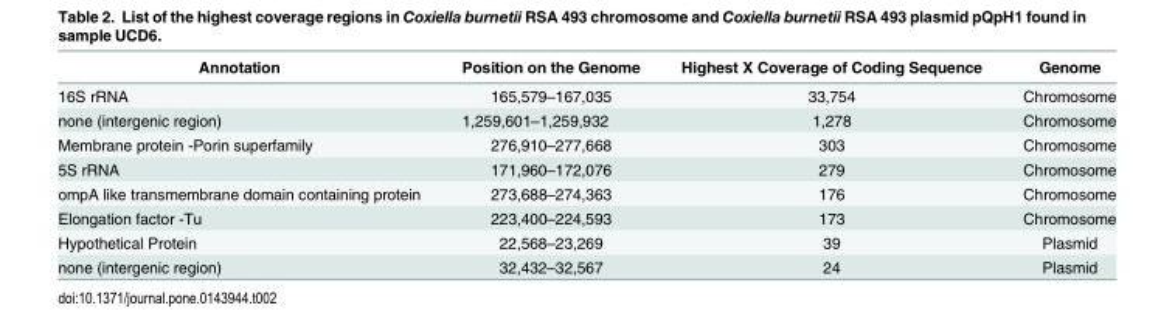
<table><thead><tr><td>Annotation</td><td>Position on the Genome</td><td>Highest X Coverage of Coding Sequence</td><td>Genome</td></tr></thead><tbody><tr><td>16S rRNA</td><td>165,579–167,035</td><td>33,754</td><td>Chromosome</td></tr><tr><td>none (intergenic region)</td><td>1,259,601–1,259,932</td><td>1,278</td><td>Chromosome</td></tr><tr><td>Membrane protein -Porin superfamily</td><td>276,910–277,668</td><td>303</td><td>Chromosome</td></tr><tr><td>5S rRNA</td><td>171,960–172,076</td><td>279</td><td>Chromosome</td></tr><tr><td>ompA like transmembrane domain containing protein</td><td>273,688–274,363</td><td>176</td><td>Chromosome</td></tr><tr><td>Elongation factor -Tu</td><td>223,400–224,593</td><td>173</td><td>Chromosome</td></tr><tr><td>Hypothetical Protein</td><td>22,568–23,269</td><td>39</td><td>Plasmid</td></tr><tr><td>none (intergenic region)</td><td>32,432–32,567</td><td>24</td><td>Plasmid</td></tr></tbody></table>